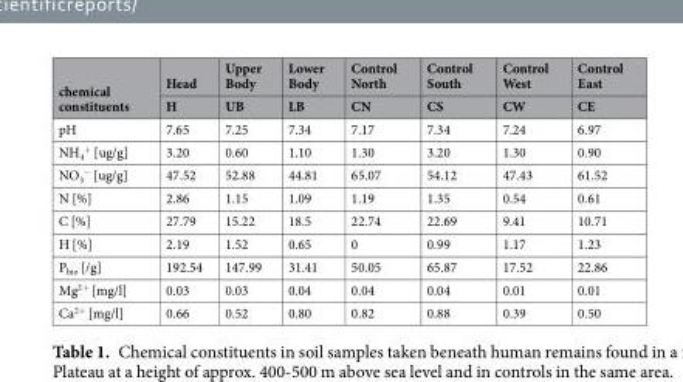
<table><thead><tr><td rowspan="2">chemical constituents</td><td rowspan="2">Head H</td><td rowspan="2">Upper Body UB</td><td rowspan="2">Lower Body LB</td><td rowspan="2">Control North CN</td><td rowspan="2">Control South CS</td><td rowspan="2">Control West CW</td><td rowspan="2">Control East CE</td></tr><tr></tr></thead><tbody><tr><td>pH</td><td>7.65</td><td>7.25</td><td>7.34</td><td>7.17</td><td>7.34</td><td>7.24</td><td>6.97</td></tr><tr><td>NH<sub>4</sub> <sup>+</sup> [ug/g]</td><td>3.20</td><td>0.60</td><td>1.10</td><td>1.30</td><td>3.20</td><td>1.30</td><td>0.90</td></tr><tr><td>NO<sub>3</sub> <sup>−</sup> [ug/g]</td><td>47.52</td><td>52.88</td><td>44.81</td><td>65.07</td><td>54.12</td><td>47.43</td><td>61.52</td></tr><tr><td>N [%]</td><td>2.86</td><td>1.15</td><td>1.09</td><td>1.19</td><td>1.35</td><td>0.54</td><td>0.61</td></tr><tr><td>C [%]</td><td>27.79</td><td>15.22</td><td>18.5</td><td>22.74</td><td>22.69</td><td>9.41</td><td>10.71</td></tr><tr><td>H [%]</td><td>2.19</td><td>1.52</td><td>0.65</td><td>0</td><td>0.99</td><td>1.17</td><td>1.23</td></tr><tr><td>P<sub>bio</sub> [/g]</td><td>192.54</td><td>147.99</td><td>31.41</td><td>50.05</td><td>65.87</td><td>17.52</td><td>22.86</td></tr><tr><td>Mg<sup>2+</sup> [mg/l]</td><td>0.03</td><td>0.03</td><td>0.04</td><td>0.04</td><td>0.04</td><td>0.01</td><td>0.01</td></tr><tr><td>Ca<sup>2+</sup> [mg/l]</td><td>0.66</td><td>0.52</td><td>0.80</td><td>0.82</td><td>0.88</td><td>0.39</td><td>0.50</td></tr></tbody></table>